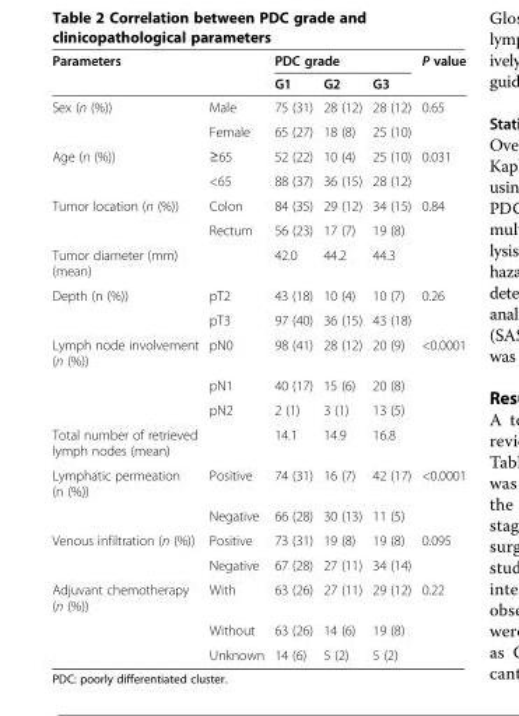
<table><thead><tr><td colspan="2">Parameters</td><td colspan="3">PDC grade</td><td rowspan="2">P value</td></tr><tr><td></td><td></td><td>G1</td><td>G2</td><td>G3</td></tr></thead><tbody><tr><td rowspan="2">Sex (n (%))</td><td>Male</td><td>75 (31)</td><td>28 (12)</td><td>28 (12)</td><td>0.65</td></tr><tr><td>Female</td><td>65 (27)</td><td>18 (8)</td><td>25 (10)</td><td></td></tr><tr><td rowspan="2">Age (n (%))</td><td>≥65</td><td>52 (22)</td><td>10 (4)</td><td>25 (10)</td><td>0.031</td></tr><tr><td>&lt;65</td><td>88 (37)</td><td>36 (15)</td><td>28 (12)</td><td></td></tr><tr><td rowspan="2">Tumor location (n (%))</td><td>Colon</td><td>84 (35)</td><td>29 (12)</td><td>34 (15)</td><td>0.84</td></tr><tr><td>Rectum</td><td>56 (23)</td><td>17 (7)</td><td>19 (8)</td><td></td></tr><tr><td>Tumor diameter (mm) (mean)</td><td></td><td>42.0</td><td>44.2</td><td>44.3</td><td></td></tr><tr><td rowspan="2">Depth (n (%))</td><td>pT2</td><td>43 (18)</td><td>10 (4)</td><td>10 (7)</td><td>0.26</td></tr><tr><td>pT3</td><td>97 (40)</td><td>36 (15)</td><td>43 (18)</td><td></td></tr><tr><td rowspan="3">Lymph node involvement (n (%))</td><td>pN0</td><td>98 (41)</td><td>28 (12)</td><td>20 (9)</td><td>&lt;0.0001</td></tr><tr><td>pN1</td><td>40 (17)</td><td>15 (6)</td><td>20 (8)</td><td></td></tr><tr><td>pN2</td><td>2 (1)</td><td>3 (1)</td><td>13 (5)</td><td></td></tr><tr><td>Total number of retrieved lymph nodes (mean)</td><td></td><td>14.1</td><td>14.9</td><td>16.8</td><td></td></tr><tr><td rowspan="2">Lymphatic permeation (n (%))</td><td>Positive</td><td>74 (31)</td><td>16 (7)</td><td>42 (17)</td><td>&lt;0.0001</td></tr><tr><td>Negative</td><td>66 (28)</td><td>30 (13)</td><td>11 (5)</td><td></td></tr><tr><td rowspan="2">Venous infiltration (n (%))</td><td>Positive</td><td>73 (31)</td><td>19 (8)</td><td>19 (8)</td><td>0.095</td></tr><tr><td>Negative</td><td>67 (28)</td><td>27 (11)</td><td>34 (14)</td><td></td></tr><tr><td rowspan="3">Adjuvant chemotherapy (n (%))</td><td>With</td><td>63 (26)</td><td>27 (11)</td><td>29 (12)</td><td>0.22</td></tr><tr><td>Without</td><td>63 (26)</td><td>14 (6)</td><td>19 (8)</td><td></td></tr><tr><td>Unknown</td><td>14 (6)</td><td>5 (2)</td><td>5 (2)</td><td></td></tr></tbody></table>